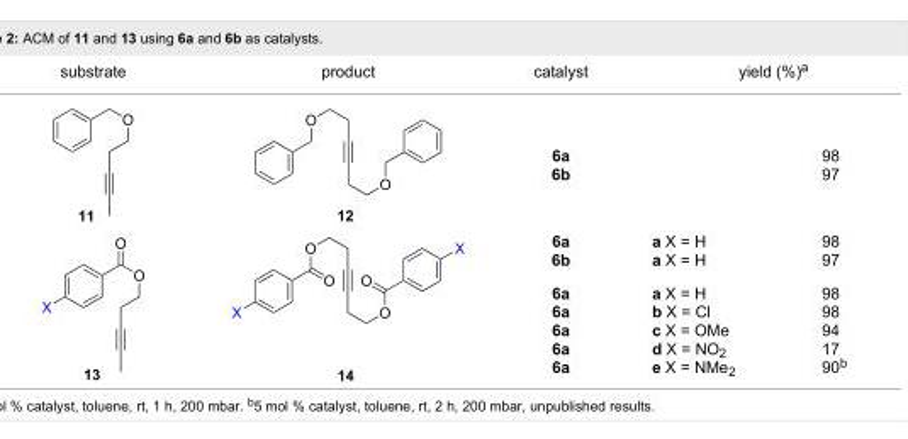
<table><tbody><tr><td rowspan="4">substrate</td><td>product</td><td>catalyst</td><td colspan="2">yield (%)<sup>a</sup></td></tr><tr><td></td><td>6a 6b</td><td></td><td>98 97</td></tr><tr><td rowspan="2"></td><td>6a 6b</td><td>a X = H a X = H</td><td>98 97</td></tr><tr><td>6a 6a 6a 6a 6a</td><td>a X = H b X = Cl c X = OMe d X = NO<sub>2</sub> e X = NMe<sub>2</sub></td><td>98 98 94 17 90<sup>b</sup></td></tr></tbody></table>